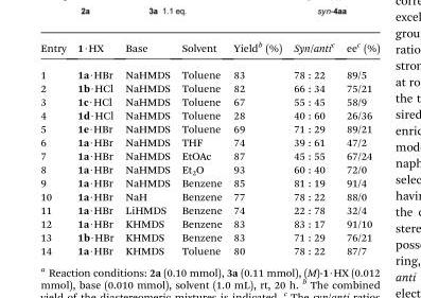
<table><thead><tr><td>Entry</td><td>1·HX</td><td>Base</td><td>Solvent</td><td>Yield<sup>b</sup> (%)</td><td>Syn/anti<sup>c</sup></td><td>ee<sup>c</sup> (%)</td></tr></thead><tbody><tr><td>1</td><td>1a·HBr</td><td>NaHMDS</td><td>Toluene</td><td>83</td><td>78 : 22</td><td>89/5</td></tr><tr><td>2</td><td>1b·HCl</td><td>NaHMDS</td><td>Toluene</td><td>82</td><td>66 : 34</td><td>75/21</td></tr><tr><td>3</td><td>1c·HCl</td><td>NaHMDS</td><td>Toluene</td><td>67</td><td>55 : 45</td><td>58/9</td></tr><tr><td>4</td><td>1d·HCl</td><td>NaHMDS</td><td>Toluene</td><td>28</td><td>40 : 60</td><td>26/36</td></tr><tr><td>5</td><td>1e·HBr</td><td>NaHMDS</td><td>Toluene</td><td>69</td><td>71 : 29</td><td>89/21</td></tr><tr><td>6</td><td>1a·HBr</td><td>NaHMDS</td><td>THF</td><td>74</td><td>39 : 61</td><td>47/2</td></tr><tr><td>7</td><td>1a·HBr</td><td>NaHMDS</td><td>EtOAc</td><td>87</td><td>45 : 55</td><td>67/24</td></tr><tr><td>8</td><td>1a·HBr</td><td>NaHMDS</td><td>Et<sub>2</sub>O</td><td>93</td><td>60 : 40</td><td>72/0</td></tr><tr><td>9</td><td>1a·HBr</td><td>NaHMDS</td><td>Benzene</td><td>85</td><td>81 : 19</td><td>91/4</td></tr><tr><td>10</td><td>1a·HBr</td><td>NaH</td><td>Benzene</td><td>77</td><td>78 : 22</td><td>88/0</td></tr><tr><td>11</td><td>1a·HBr</td><td>LiHMDS</td><td>Benzene</td><td>74</td><td>22 : 78</td><td>32/4</td></tr><tr><td>12</td><td>1a·HBr</td><td>KHMDS</td><td>Benzene</td><td>83</td><td>83 : 17</td><td>91/10</td></tr><tr><td>13</td><td>1b·HBr</td><td>KHMDS</td><td>Benzene</td><td>83</td><td>71 : 29</td><td>76/21</td></tr><tr><td>14</td><td>1a·HBr</td><td>KHMDS</td><td>Toluene</td><td>80</td><td>78 : 22</td><td>87/7</td></tr></tbody></table>